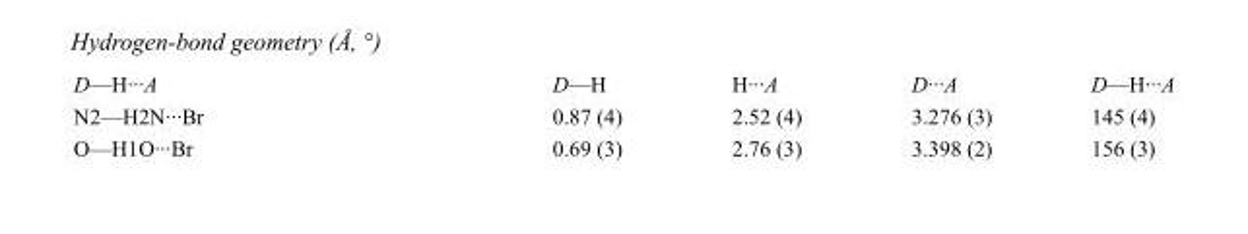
<table><tbody><tr><td>D—H···A</td><td>D—H</td><td>H···A</td><td>D···A</td><td>D—H···A</td></tr><tr><td>N2—H2N···Br</td><td>0.87 (4)</td><td>2.52 (4)</td><td>3.276 (3)</td><td>145 (4)</td></tr><tr><td>O—H1O···Br</td><td>0.69 (3)</td><td>2.76 (3)</td><td>3.398 (2)</td><td>156 (3)</td></tr></tbody></table>